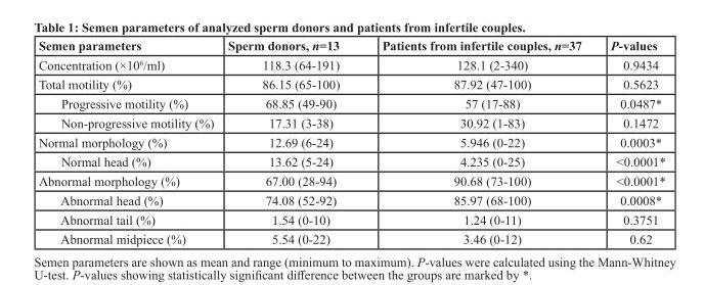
<table><thead><tr><td>Semen parameters</td><td>Sperm donors, n=13</td><td>Patients from infertile couples, n=37</td><td>P-values</td></tr></thead><tbody><tr><td>Concentration (×10<sup>6</sup>/ml)</td><td>118.3 (64-191)</td><td>128.1 (2-340)</td><td>0.9434</td></tr><tr><td>Total motility (%)</td><td>86.15 (65-100)</td><td>87.92 (47-100)</td><td>0.5623</td></tr><tr><td>Progressive motility (%)</td><td>68.85 (49-90)</td><td>57 (17-88)</td><td>0.0487*</td></tr><tr><td>Non-progressive motility (%)</td><td>17.31 (3-38)</td><td>30.92 (1-83)</td><td>0.1472</td></tr><tr><td>Normal morphology (%)</td><td>12.69 (6-24)</td><td>5.946 (0-22)</td><td>0.0003*</td></tr><tr><td>Normal head (%)</td><td>13.62 (5-24)</td><td>4.235 (0-25)</td><td>&lt;0.0001*</td></tr><tr><td>Abnormal morphology (%)</td><td>67.00 (28-94)</td><td>90.68 (73-100)</td><td>&lt;0.0001*</td></tr><tr><td>Abnormal head (%)</td><td>74.08 (52-92)</td><td>85.97 (68-100)</td><td>0.0008*</td></tr><tr><td>Abnormal tail (%)</td><td>1.54 (0-10)</td><td>1.24 (0-11)</td><td>0.3751</td></tr><tr><td>Abnormal midpiece (%)</td><td>5.54 (0-22)</td><td>3.46 (0-12)</td><td>0.62</td></tr></tbody></table>